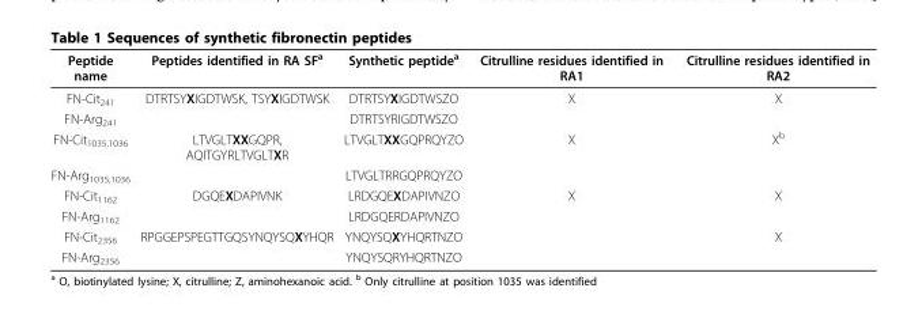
<table><thead><tr><td>Peptide name</td><td>Peptides identified in RA SF<sup>a</sup></td><td>Synthetic peptide<sup>a</sup></td><td>Citrulline residues identified in RA1</td><td>Citrulline residues identified in RA2</td></tr></thead><tbody><tr><td>FN-Cit<sub>241</sub></td><td>DTRTSYXIGDTWSK, TSYXIGDTWSK</td><td>DTRTSYXIGDTWSZO</td><td>X</td><td>X</td></tr><tr><td>FN-Arg<sub>241</sub></td><td></td><td>DTRTSYRIGDTWSZO</td><td></td><td></td></tr><tr><td>FN-Cit<sub>1035,1036</sub></td><td>LTVGLTXXGQPR, AQITGYRLTVGLTXR</td><td>LTVGLTXXGQPRQYZO</td><td>X</td><td>X<sup>b</sup></td></tr><tr><td>FN-Arg<sub>1035,1036</sub></td><td></td><td>LTVGLTRRGQPRQYZO</td><td></td><td></td></tr><tr><td>FN-Cit<sub>1162</sub></td><td>DGQEXDAPIVNK</td><td>LRDGQEXDAPIVNZO</td><td>X</td><td>X</td></tr><tr><td>FN-Arg<sub>1162</sub></td><td></td><td>LRDGQERDAPIVNZO</td><td></td><td></td></tr><tr><td>FN-Cit<sub>2356</sub></td><td>RPGGEPSPEGTTGQSYNQYSQXYHQR</td><td>YNQYSQXYHQRTNZO</td><td></td><td>X</td></tr><tr><td>FN-Arg<sub>2356</sub></td><td></td><td>YNQYSQRYHQRTNZO</td><td></td><td></td></tr></tbody></table>